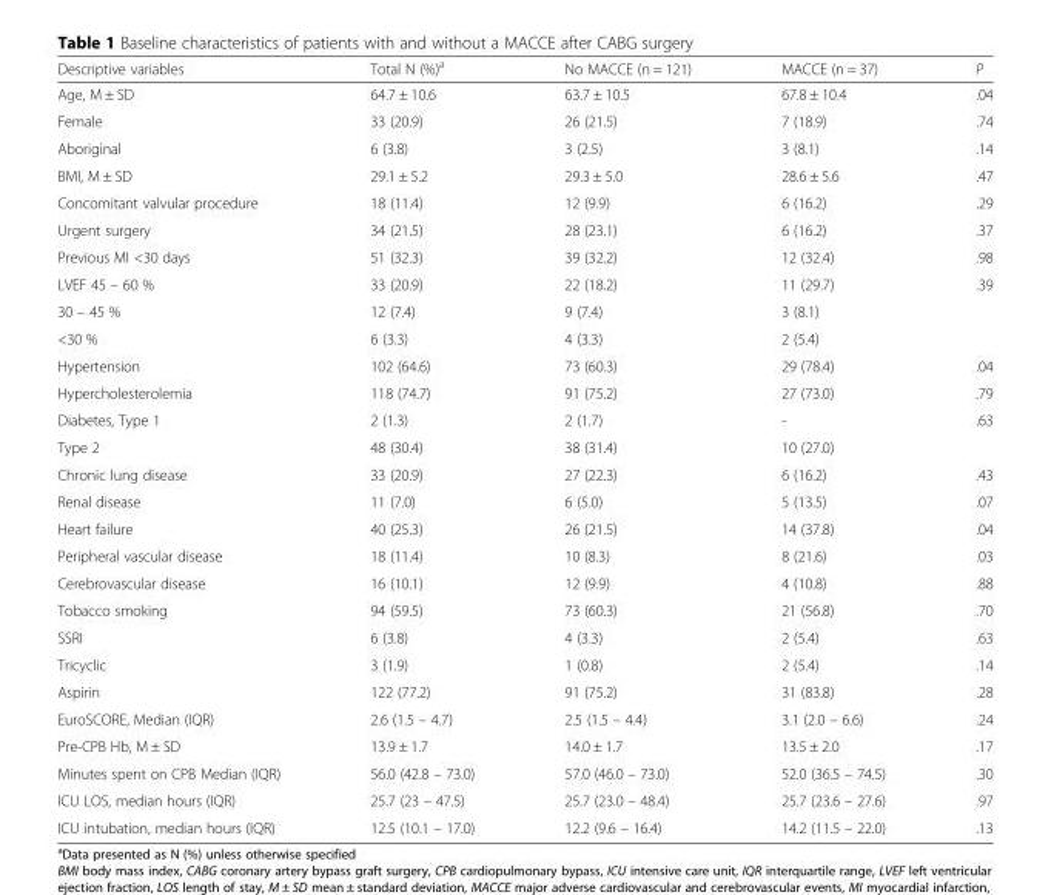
<table><thead><tr><td>Descriptive variables</td><td>Total N (%)<sup>a</sup></td><td>No MACCE (n = 121)</td><td>MACCE (n = 37)</td><td>P</td></tr></thead><tbody><tr><td>Age, M ± SD</td><td>64.7 ± 10.6</td><td>63.7 ± 10.5</td><td>67.8 ± 10.4</td><td>.04</td></tr><tr><td>Female</td><td>33 (20.9)</td><td>26 (21.5)</td><td>7 (18.9)</td><td>.74</td></tr><tr><td>Aboriginal</td><td>6 (3.8)</td><td>3 (2.5)</td><td>3 (8.1)</td><td>.14</td></tr><tr><td>BMI, M ± SD</td><td>29.1 ± 5.2</td><td>29.3 ± 5.0</td><td>28.6 ± 5.6</td><td>.47</td></tr><tr><td>Concomitant valvular procedure</td><td>18 (11.4)</td><td>12 (9.9)</td><td>6 (16.2)</td><td>.29</td></tr><tr><td>Urgent surgery</td><td>34 (21.5)</td><td>28 (23.1)</td><td>6 (16.2)</td><td>.37</td></tr><tr><td>Previous MI &lt;30 days</td><td>51 (32.3)</td><td>39 (32.2)</td><td>12 (32.4)</td><td>.98</td></tr><tr><td>LVEF 45 – 60 %</td><td>33 (20.9)</td><td>22 (18.2)</td><td>11 (29.7)</td><td>.39</td></tr><tr><td>30 – 45 %</td><td>12 (7.4)</td><td>9 (7.4)</td><td>3 (8.1)</td><td></td></tr><tr><td>&lt;30 %</td><td>6 (3.3)</td><td>4 (3.3)</td><td>2 (5.4)</td><td></td></tr><tr><td>Hypertension</td><td>102 (64.6)</td><td>73 (60.3)</td><td>29 (78.4)</td><td>.04</td></tr><tr><td>Hypercholesterolemia</td><td>118 (74.7)</td><td>91 (75.2)</td><td>27 (73.0)</td><td>.79</td></tr><tr><td>Diabetes, Type 1</td><td>2 (1.3)</td><td>2 (1.7)</td><td>-</td><td>.63</td></tr><tr><td>Type 2</td><td>48 (30.4)</td><td>38 (31.4)</td><td>10 (27.0)</td><td></td></tr><tr><td>Chronic lung disease</td><td>33 (20.9)</td><td>27 (22.3)</td><td>6 (16.2)</td><td>.43</td></tr><tr><td>Renal disease</td><td>11 (7.0)</td><td>6 (5.0)</td><td>5 (13.5)</td><td>.07</td></tr><tr><td>Heart failure</td><td>40 (25.3)</td><td>26 (21.5)</td><td>14 (37.8)</td><td>.04</td></tr><tr><td>Peripheral vascular disease</td><td>18 (11.4)</td><td>10 (8.3)</td><td>8 (21.6)</td><td>.03</td></tr><tr><td>Cerebrovascular disease</td><td>16 (10.1)</td><td>12 (9.9)</td><td>4 (10.8)</td><td>.88</td></tr><tr><td>Tobacco smoking</td><td>94 (59.5)</td><td>73 (60.3)</td><td>21 (56.8)</td><td>.70</td></tr><tr><td>SSRI</td><td>6 (3.8)</td><td>4 (3.3)</td><td>2 (5.4)</td><td>.63</td></tr><tr><td>Tricyclic</td><td>3 (1.9)</td><td>1 (0.8)</td><td>2 (5.4)</td><td>.14</td></tr><tr><td>Aspirin</td><td>122 (77.2)</td><td>91 (75.2)</td><td>31 (83.8)</td><td>.28</td></tr><tr><td>EuroSCORE, Median (IQR)</td><td>2.6 (1.5 – 4.7)</td><td>2.5 (1.5 – 4.4)</td><td>3.1 (2.0 – 6.6)</td><td>.24</td></tr><tr><td>Pre-CPB Hb, M ± SD</td><td>13.9 ± 1.7</td><td>14.0 ± 1.7</td><td>13.5 ± 2.0</td><td>.17</td></tr><tr><td>Minutes spent on CPB Median (IQR)</td><td>56.0 (42.8 – 73.0)</td><td>57.0 (46.0 – 73.0)</td><td>52.0 (36.5 – 74.5)</td><td>.30</td></tr><tr><td>ICU LOS, median hours (IQR)</td><td>25.7 (23 – 47.5)</td><td>25.7 (23.0 – 48.4)</td><td>25.7 (23.6 – 27.6)</td><td>.97</td></tr><tr><td>ICU intubation, median hours (IQR)</td><td>12.5 (10.1 – 17.0)</td><td>12.2 (9.6 – 16.4)</td><td>14.2 (11.5 – 22.0)</td><td>.13</td></tr></tbody></table>